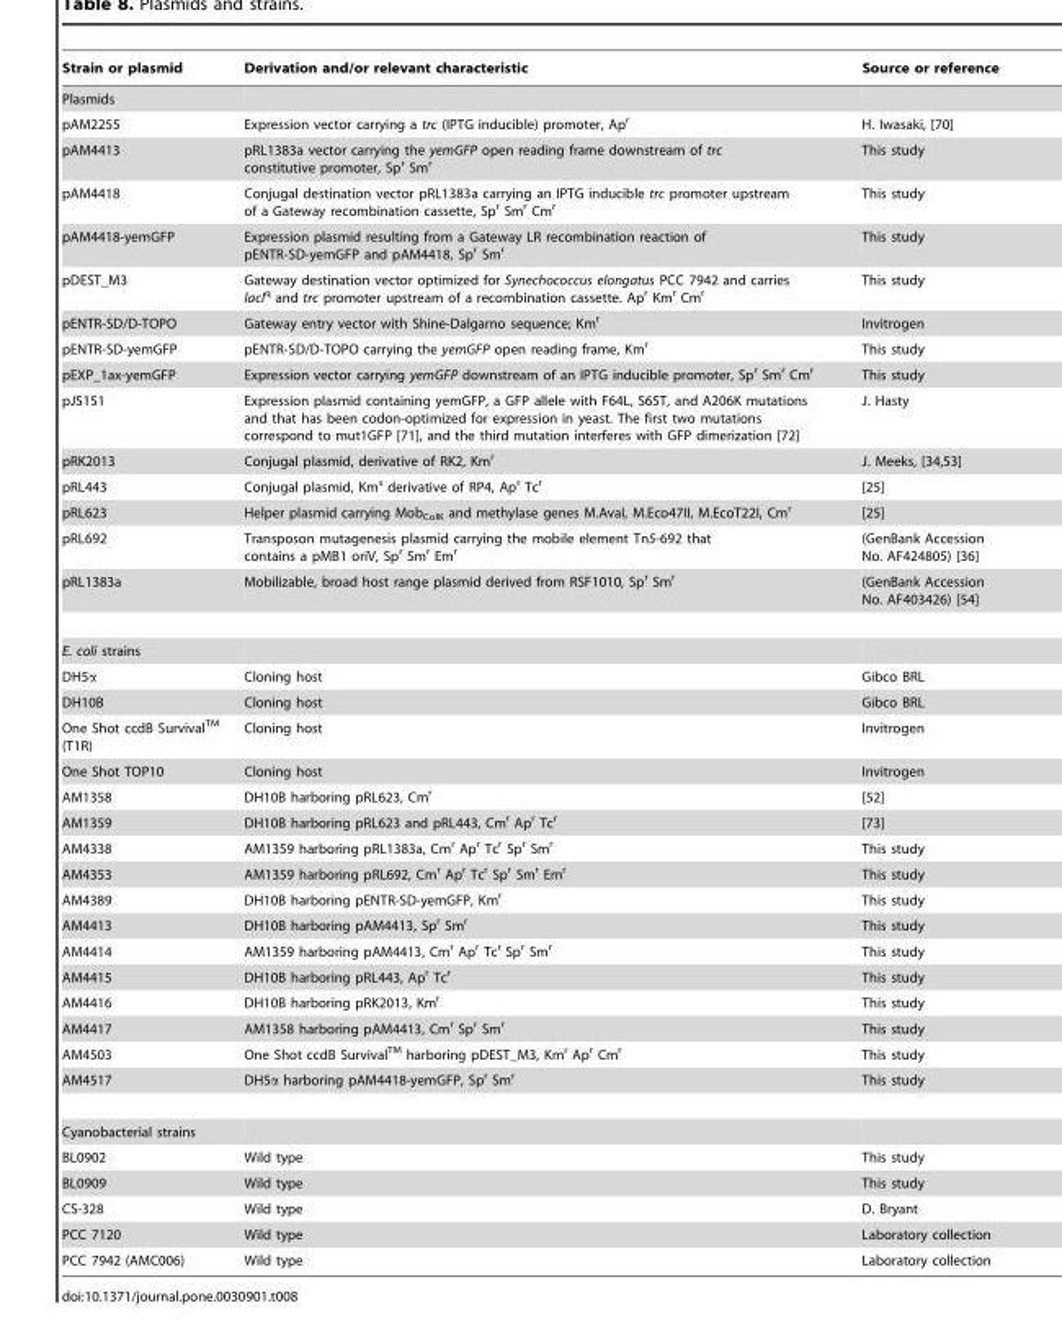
<table><thead><tr><td>Strain or plasmid</td><td>Derivation and/or relevant characteristic</td><td>Source or reference</td></tr></thead><tbody><tr><td colspan="3">Plasmids</td></tr><tr><td>pAM2255</td><td>Expression vector carrying a trc (IPTG inducible) promoter, Ap<sup>r</sup></td><td>H. Iwasaki, [70]</td></tr><tr><td>pAM4413</td><td>pRL1383a vector carrying the yemGFP open reading frame downstream of trc constitutive promoter, Sp<sup>r</sup> Sm<sup>r</sup></td><td>This study</td></tr><tr><td>pAM4418</td><td>Conjugal destination vector pRL1383a carrying an IPTG inducible trc promoter upstream of a Gateway recombination cassette, Sp<sup>r</sup> Sm<sup>r</sup> Cm<sup>r</sup></td><td>This study</td></tr><tr><td>pAM4418-yemGFP</td><td>Expression plasmid resulting from a Gateway LR recombination reaction of pENTR-SD-yemGFP and pAM4418, Sp<sup>r</sup> Sm<sup>r</sup></td><td>This study</td></tr><tr><td>pDEST_M3</td><td>Gateway destination vector optimized for Synechococcus elongatus PCC 7942 and carries lacI<sup>q</sup> and trc promoter upstream of a recombination cassette. Ap<sup>r</sup> Km<sup>r</sup> Cm<sup>r</sup></td><td>This study</td></tr><tr><td>pENTR-SD/D-TOPO</td><td>Gateway entry vector with Shine-Dalgarno sequence; Km<sup>r</sup></td><td>Invitrogen</td></tr><tr><td>pENTR-SD-yemGFP</td><td>pENTR-SD/D-TOPO carrying the yemGFP open reading frame, Km<sup>r</sup></td><td>This study</td></tr><tr><td>pEXP_1ax-yemGFP</td><td>Expression vector carrying yemGFP downstream of an IPTG inducible promoter, Sp<sup>r</sup> Sm<sup>r</sup> Cm<sup>r</sup></td><td>This study</td></tr><tr><td>pJS151</td><td>Expression plasmid containing yemGFP, a GFP allele with F64L, S65T, and A206K mutations and that has been codon-optimized for expression in yeast. The first two mutations correspond to mut1GFP [71], and the third mutation interferes with GFP dimerization [72]</td><td>J. Hasty</td></tr><tr><td>pRK2013</td><td>Conjugal plasmid, derivative of RK2, Km<sup>r</sup></td><td>J. Meeks, [34,53]</td></tr><tr><td>pRL443</td><td>Conjugal plasmid, Km<sup>s</sup> derivative of RP4, Ap<sup>r</sup> Tc<sup>r</sup></td><td>[25]</td></tr><tr><td>pRL623</td><td>Helper plasmid carrying Mob<sub>ColK</sub> and methylase genes M.AvaI, M.Eco47II, M.EcoT22I, Cm<sup>r</sup></td><td>[25]</td></tr><tr><td>pRL692</td><td>Transposon mutagenesis plasmid carrying the mobile element Tn5-692 that contains a pMB1 oriV, Sp<sup>r</sup> Sm<sup>r</sup> Em<sup>r</sup></td><td>(GenBank Accession No. AF424805) [36]</td></tr><tr><td>pRL1383a</td><td>Mobilizable, broad host range plasmid derived from RSF1010, Sp<sup>r</sup> Sm<sup>r</sup></td><td>(GenBank Accession No. AF403426) [54]</td></tr><tr><td colspan="3">E. coli strains</td></tr><tr><td>DH5α</td><td>Cloning host</td><td>Gibco BRL</td></tr><tr><td>DH10B</td><td>Cloning host</td><td>Gibco BRL</td></tr><tr><td>One Shot ccdB SurvivalTM (T1R)</td><td>Cloning host</td><td>Invitrogen</td></tr><tr><td>One Shot TOP10</td><td>Cloning host</td><td>Invitrogen</td></tr><tr><td>AM1358</td><td>DH10B harboring pRL623, Cm<sup>r</sup></td><td>[52]</td></tr><tr><td>AM1359</td><td>DH10B harboring pRL623 and pRL443, Cm<sup>r</sup> Ap<sup>r</sup> Tc<sup>r</sup></td><td>[73]</td></tr><tr><td>AM4338</td><td>AM1359 harboring pRL1383a, Cm<sup>r</sup> Ap<sup>r</sup> Tc<sup>r</sup> Sp<sup>r</sup> Sm<sup>r</sup></td><td>This study</td></tr><tr><td>AM4353</td><td>AM1359 harboring pRL692, Cm<sup>r</sup> Ap<sup>r</sup> Tc<sup>r</sup> Sp<sup>r</sup> Sm<sup>r</sup> Em<sup>r</sup></td><td>This study</td></tr><tr><td>AM4389</td><td>DH10B harboring pENTR-SD-yemGFP, Km<sup>r</sup></td><td>This study</td></tr><tr><td>AM4413</td><td>DH10B harboring pAM4413, Sp<sup>r</sup> Sm<sup>r</sup></td><td>This study</td></tr><tr><td>AM4414</td><td>AM1359 harboring pAM4413, Cm<sup>r</sup> Ap<sup>r</sup> Tc<sup>r</sup> Sp<sup>r</sup> Sm<sup>r</sup></td><td>This study</td></tr><tr><td>AM4415</td><td>DH10B harboring pRL443, Ap<sup>r</sup> Tc<sup>r</sup></td><td>This study</td></tr><tr><td>AM4416</td><td>DH10B harboring pRK2013, Km<sup>r</sup></td><td>This study</td></tr><tr><td>AM4417</td><td>AM1358 harboring pAM4413, Cm<sup>r</sup> Sp<sup>r</sup> Sm<sup>r</sup></td><td>This study</td></tr><tr><td>AM4503</td><td>One Shot ccdB SurvivalTM harboring pDEST_M3, Km<sup>r</sup> Ap<sup>r</sup> Cm<sup>r</sup></td><td>This study</td></tr><tr><td>AM4517</td><td>DH5α harboring pAM4418-yemGFP, Sp<sup>r</sup> Sm<sup>r</sup></td><td>This study</td></tr><tr><td colspan="3">Cyanobacterial strains</td></tr><tr><td>BL0902</td><td>Wild type</td><td>This study</td></tr><tr><td>BL0909</td><td>Wild type</td><td>This study</td></tr><tr><td>CS-328</td><td>Wild type</td><td>D. Bryant</td></tr><tr><td>PCC 7120</td><td>Wild type</td><td>Laboratory collection</td></tr><tr><td>PCC 7942 (AMC006)</td><td>Wild type</td><td>Laboratory collection</td></tr></tbody></table>